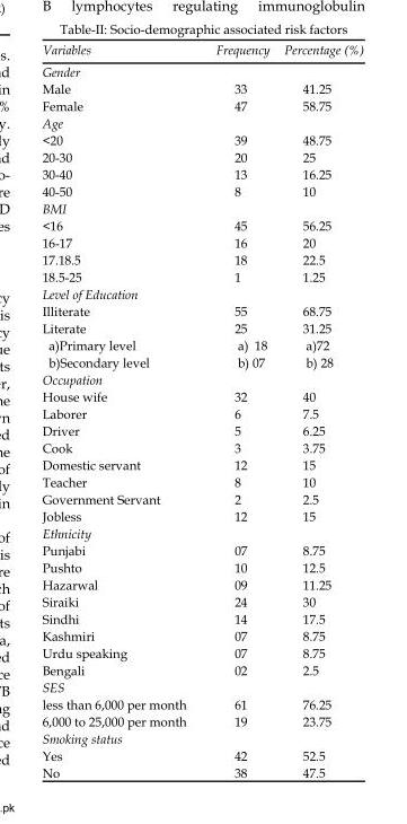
<table><thead><tr><td>Variables</td><td>Frequency</td><td>Percentage (%)</td></tr></thead><tbody><tr><td colspan="3">Gender</td></tr><tr><td>Male</td><td>33</td><td>41.25</td></tr><tr><td>Female</td><td>47</td><td>58.75</td></tr><tr><td colspan="3">Age</td></tr><tr><td>&lt;20</td><td>39</td><td>48.75</td></tr><tr><td>20-30</td><td>20</td><td>25</td></tr><tr><td>30-40</td><td>13</td><td>16.25</td></tr><tr><td>40-50</td><td>8</td><td>10</td></tr><tr><td colspan="3">BMI</td></tr><tr><td>&lt;16</td><td>45</td><td>56.25</td></tr><tr><td>16-17</td><td>16</td><td>20</td></tr><tr><td>17.18.5</td><td>18</td><td>22.5</td></tr><tr><td>18.5-25</td><td>1</td><td>1.25</td></tr><tr><td colspan="3">Level of Education</td></tr><tr><td>Illiterate</td><td>55</td><td>68.75</td></tr><tr><td>Literate</td><td>25</td><td>31.25</td></tr><tr><td>a)Primary level</td><td>a) 18</td><td>a)72</td></tr><tr><td>b)Secondary level</td><td>b) 07</td><td>b) 28</td></tr><tr><td colspan="3">Occupation</td></tr><tr><td>House wife</td><td>32</td><td>40</td></tr><tr><td>Laborer</td><td>6</td><td>7.5</td></tr><tr><td>Driver</td><td>5</td><td>6.25</td></tr><tr><td>Cook</td><td>3</td><td>3.75</td></tr><tr><td>Domestic servant</td><td>12</td><td>15</td></tr><tr><td>Teacher</td><td>8</td><td>10</td></tr><tr><td>Government Servant</td><td>2</td><td>2.5</td></tr><tr><td>Jobless</td><td>12</td><td>15</td></tr><tr><td colspan="3">Ethnicity</td></tr><tr><td>Punjabi</td><td>07</td><td>8.75</td></tr><tr><td>Pushto</td><td>10</td><td>12.5</td></tr><tr><td>Hazarwal</td><td>09</td><td>11.25</td></tr><tr><td>Siraiki</td><td>24</td><td>30</td></tr><tr><td>Sindhi</td><td>14</td><td>17.5</td></tr><tr><td>Kashmiri</td><td>07</td><td>8.75</td></tr><tr><td>Urdu speaking</td><td>07</td><td>8.75</td></tr><tr><td>Bengali</td><td>02</td><td>2.5</td></tr><tr><td colspan="3">SES</td></tr><tr><td>less than 6,000 per month</td><td>61</td><td>76.25</td></tr><tr><td>6,000 to 25,000 per month</td><td>19</td><td>23.75</td></tr><tr><td colspan="3">Smoking status</td></tr><tr><td>Yes</td><td>42</td><td>52.5</td></tr><tr><td>No</td><td>38</td><td>47.5</td></tr></tbody></table>